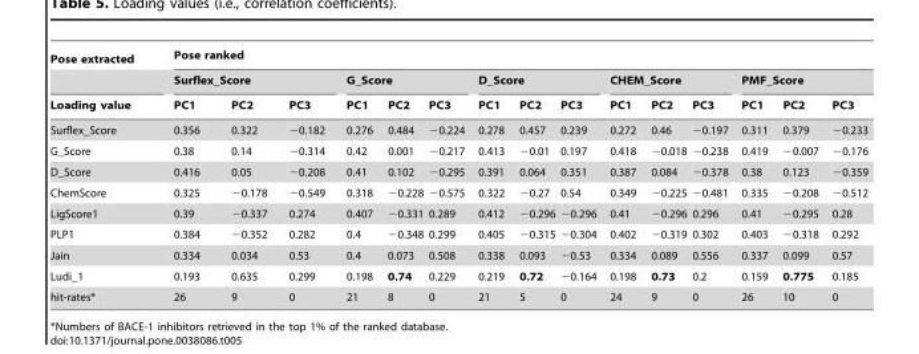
<table><thead><tr><td rowspan="3">Pose extracted Loading value</td><td colspan="15">Pose ranked</td></tr><tr><td colspan="3">Surflex_Score</td><td colspan="3">G_Score</td><td colspan="3">D_Score</td><td colspan="3">CHEM_Score</td><td colspan="3">PMF_Score</td></tr><tr><td>PC1</td><td>PC2</td><td>PC3</td><td>PC1</td><td>PC2</td><td>PC3</td><td>PC1</td><td>PC2</td><td>PC3</td><td>PC1</td><td>PC2</td><td>PC3</td><td>PC1</td><td>PC2</td><td>PC3</td></tr></thead><tbody><tr><td>Surflex_Score</td><td>0.356</td><td>0.322</td><td>−0.182</td><td>0.276</td><td>0.484</td><td>−0.224</td><td>0.278</td><td>0.457</td><td>0.239</td><td>0.272</td><td>0.46</td><td>−0.197</td><td>0.311</td><td>0.379</td><td>−0.233</td></tr><tr><td>G_Score</td><td>0.38</td><td>0.14</td><td>−0.314</td><td>0.42</td><td>0.001</td><td>−0.217</td><td>0.413</td><td>−0.01</td><td>0.197</td><td>0.418</td><td>−0.018</td><td>−0.238</td><td>0.419</td><td>−0.007</td><td>−0.176</td></tr><tr><td>D_Score</td><td>0.416</td><td>0.05</td><td>−0.208</td><td>0.41</td><td>0.102</td><td>−0.295</td><td>0.391</td><td>0.064</td><td>0.351</td><td>0.387</td><td>0.084</td><td>−0.378</td><td>0.38</td><td>0.123</td><td>−0.359</td></tr><tr><td>ChemScore</td><td>0.325</td><td>−0.178</td><td>−0.549</td><td>0.318</td><td>−0.228</td><td>−0.575</td><td>0.322</td><td>−0.27</td><td>0.54</td><td>0.349</td><td>−0.225</td><td>−0.481</td><td>0.335</td><td>−0.208</td><td>−0.512</td></tr><tr><td>LigScore1</td><td>0.39</td><td>−0.337</td><td>0.274</td><td>0.407</td><td>−0.331</td><td>0.289</td><td>0.412</td><td>−0.296</td><td>−0.296</td><td>0.41</td><td>−0.296</td><td>0.296</td><td>0.41</td><td>−0.295</td><td>0.28</td></tr><tr><td>PLP1</td><td>0.384</td><td>−0.352</td><td>0.282</td><td>0.4</td><td>−0.348</td><td>0.299</td><td>0.405</td><td>−0.315</td><td>−0.304</td><td>0.402</td><td>−0.319</td><td>0.302</td><td>0.403</td><td>−0.318</td><td>0.292</td></tr><tr><td>Jain</td><td>0.334</td><td>0.034</td><td>0.53</td><td>0.4</td><td>0.073</td><td>0.508</td><td>0.338</td><td>0.093</td><td>−0.53</td><td>0.334</td><td>0.089</td><td>0.556</td><td>0.337</td><td>0.099</td><td>0.57</td></tr><tr><td>Ludi_1</td><td>0.193</td><td>0.635</td><td>0.299</td><td>0.198</td><td>0.74</td><td>0.229</td><td>0.219</td><td>0.72</td><td>−0.164</td><td>0.198</td><td>0.73</td><td>0.2</td><td>0.159</td><td>0.775</td><td>0.185</td></tr><tr><td>hit-rates*</td><td>26</td><td>9</td><td>0</td><td>21</td><td>8</td><td>0</td><td>21</td><td>5</td><td>0</td><td>24</td><td>9</td><td>0</td><td>26</td><td>10</td><td>0</td></tr></tbody></table>